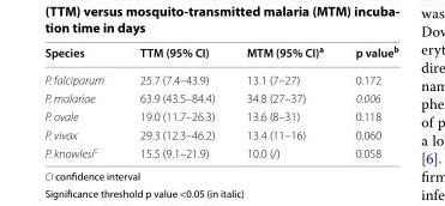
<table><thead><tr><td>Species</td><td>TTM (95% CI)</td><td>MTM (95% CI)<sup>a</sup></td><td>p value<sup>b</sup></td></tr></thead><tbody><tr><td>P. falciparum</td><td>25.7 (7.4–43.9)</td><td>13.1 (7–27)</td><td>0.172</td></tr><tr><td>P. malariae</td><td>63.9 (43.5–84.4)</td><td>34.8 (27–37)</td><td>0.006</td></tr><tr><td>P. ovale</td><td>19.0 (11.7–26.3)</td><td>13.6 (8–31)</td><td>0.118</td></tr><tr><td>P. vivax</td><td>29.3 (12.3–46.2)</td><td>13.4 (11–16)</td><td>0.060</td></tr><tr><td>P. knowlesi<sup>c</sup></td><td>15.5 (9.1–21.9)</td><td>10.0 (/)</td><td>0.058</td></tr></tbody></table>